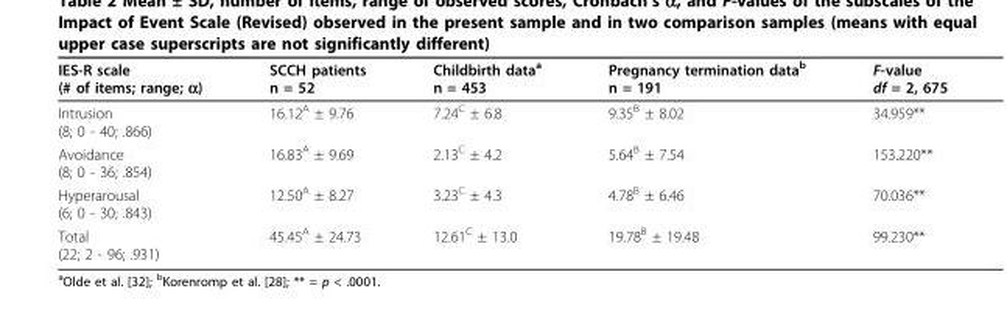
<table><thead><tr><td>IES-R scale (# of items; range; α)</td><td>SCCH patients n = 52</td><td>Childbirth data<sup>a</sup> n = 453</td><td>Pregnancy termination data<sup>b</sup> n = 191</td><td>F-value df = 2, 675</td></tr></thead><tbody><tr><td>Intrusion (8; 0 - 40; .866)</td><td>16.12<sup>A</sup> ± 9.76</td><td>7.24<sup>C</sup> ± 6.8</td><td>9.35<sup>B</sup> ± 8.02</td><td>34.959**</td></tr><tr><td>Avoidance (8; 0 - 36; .854)</td><td>16.83<sup>A</sup> ± 9.69</td><td>2.13<sup>C</sup> ± 4.2</td><td>5.64<sup>B</sup> ± 7.54</td><td>153.220**</td></tr><tr><td>Hyperarousal (6; 0 - 30; .843)</td><td>12.50<sup>A</sup> ± 8.27</td><td>3.23<sup>C</sup> ± 4.3</td><td>4.78<sup>B</sup> ± 6.46</td><td>70.036**</td></tr><tr><td>Total (22; 2 - 96; .931)</td><td>45.45<sup>A</sup> ± 24.73</td><td>12.61<sup>C</sup> ± 13.0</td><td>19.78<sup>B</sup> ± 19.48</td><td>99.230**</td></tr></tbody></table>